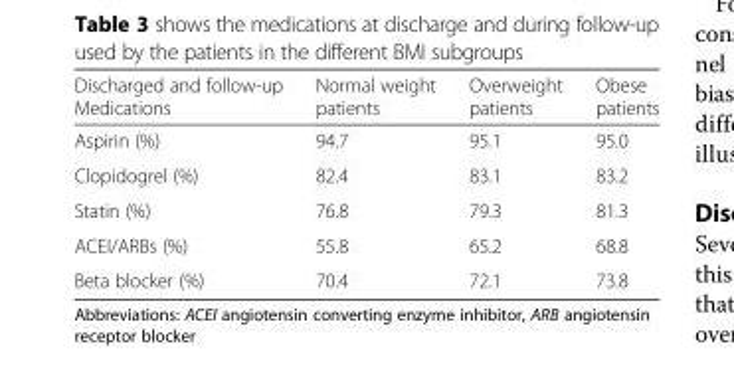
<table><thead><tr><td>Discharged and follow-up Medications</td><td>Normal weight patients</td><td>Overweight patients</td><td>Obese patients</td></tr></thead><tbody><tr><td>Aspirin (%)</td><td>94.7</td><td>95.1</td><td>95.0</td></tr><tr><td>Clopidogrel (%)</td><td>82.4</td><td>83.1</td><td>83.2</td></tr><tr><td>Statin (%)</td><td>76.8</td><td>79.3</td><td>81.3</td></tr><tr><td>ACEI/ARBs (%)</td><td>55.8</td><td>65.2</td><td>68.8</td></tr><tr><td>Beta blocker (%)</td><td>70.4</td><td>72.1</td><td>73.8</td></tr></tbody></table>